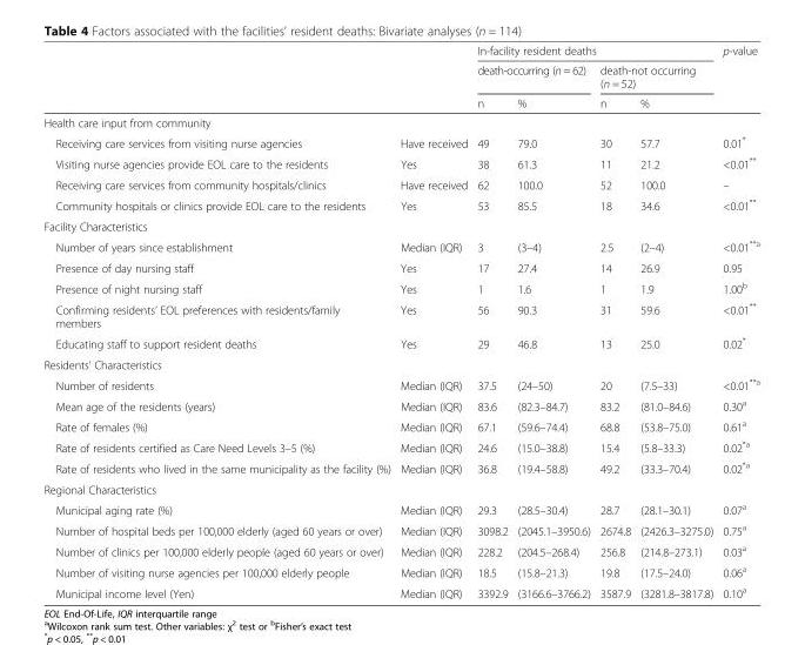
<table><thead><tr><td rowspan="3"></td><td rowspan="3"></td><td colspan="4">In-facility resident deaths</td><td rowspan="3">p-value</td></tr><tr><td colspan="2">death-occurring (n = 62)</td><td colspan="2">death-not occurring (n = 52)</td></tr><tr><td>n</td><td>%</td><td>n</td><td>%</td></tr></thead><tbody><tr><td colspan="7">Health care input from community</td></tr><tr><td>Receiving care services from visiting nurse agencies</td><td>Have received</td><td>49</td><td>79.0</td><td>30</td><td>57.7</td><td>0.01*</td></tr><tr><td>Visiting nurse agencies provide EOL care to the residents</td><td>Yes</td><td>38</td><td>61.3</td><td>11</td><td>21.2</td><td>&lt;0.01**</td></tr><tr><td>Receiving care services from community hospitals/clinics</td><td>Have received</td><td>62</td><td>100.0</td><td>52</td><td>100.0</td><td>–</td></tr><tr><td>Community hospitals or clinics provide EOL care to the residents</td><td>Yes</td><td>53</td><td>85.5</td><td>18</td><td>34.6</td><td>&lt;0.01**</td></tr><tr><td colspan="7">Facility Characteristics</td></tr><tr><td>Number of years since establishment</td><td>Median (IQR)</td><td>3</td><td>(3–4)</td><td>2.5</td><td>(2–4)</td><td>&lt;0.01<sup>**a</sup></td></tr><tr><td>Presence of day nursing staff</td><td>Yes</td><td>17</td><td>27.4</td><td>14</td><td>26.9</td><td>0.95</td></tr><tr><td>Presence of night nursing staff</td><td>Yes</td><td>1</td><td>1.6</td><td>1</td><td>1.9</td><td>1.00<sup>b</sup></td></tr><tr><td>Confirming residents’ EOL preferences with residents/family members</td><td>Yes</td><td>56</td><td>90.3</td><td>31</td><td>59.6</td><td>&lt;0.01**</td></tr><tr><td>Educating staff to support resident deaths</td><td>Yes</td><td>29</td><td>46.8</td><td>13</td><td>25.0</td><td>0.02*</td></tr><tr><td colspan="7">Residents’ Characteristics</td></tr><tr><td>Number of residents</td><td>Median (IQR)</td><td>37.5</td><td>(24–50)</td><td>20</td><td>(7.5–33)</td><td>&lt;0.01<sup>**a</sup></td></tr><tr><td>Mean age of the residents (years)</td><td>Median (IQR)</td><td>83.6</td><td>(82.3–84.7)</td><td>83.2</td><td>(81.0–84.6)</td><td>0.30<sup>a</sup></td></tr><tr><td>Rate of females (%)</td><td>Median (IQR)</td><td>67.1</td><td>(59.6–74.4)</td><td>68.8</td><td>(53.8–75.0)</td><td>0.61<sup>a</sup></td></tr><tr><td>Rate of residents certified as Care Need Levels 3–5 (%)</td><td>Median (IQR)</td><td>24.6</td><td>(15.0–38.8)</td><td>15.4</td><td>(5.8–33.3)</td><td>0.02<sup>*a</sup></td></tr><tr><td>Rate of residents who lived in the same municipality as the facility (%)</td><td>Median (IQR)</td><td>36.8</td><td>(19.4–58.8)</td><td>49.2</td><td>(33.3–70.4)</td><td>0.02<sup>*a</sup></td></tr><tr><td colspan="7">Regional Characteristics</td></tr><tr><td>Municipal aging rate (%)</td><td>Median (IQR)</td><td>29.3</td><td>(28.5–30.4)</td><td>28.7</td><td>(28.1–30.1)</td><td>0.07<sup>a</sup></td></tr><tr><td>Number of hospital beds per 100,000 elderly (aged 60 years or over)</td><td>Median (IQR)</td><td>3098.2</td><td>(2045.1–3950.6)</td><td>2674.8</td><td>(2426.3–3275.0)</td><td>0.75<sup>a</sup></td></tr><tr><td>Number of clinics per 100,000 elderly people (aged 60 years or over)</td><td>Median (IQR)</td><td>228.2</td><td>(204.5–268.4)</td><td>256.8</td><td>(214.8–273.1)</td><td>0.03<sup>a</sup></td></tr><tr><td>Number of visiting nurse agencies per 100,000 elderly people</td><td>Median (IQR)</td><td>18.5</td><td>(15.8–21.3)</td><td>19.8</td><td>(17.5–24.0)</td><td>0.06<sup>a</sup></td></tr><tr><td>Municipal income level (Yen)</td><td>Median (IQR)</td><td>3392.9</td><td>(3166.6–3766.2)</td><td>3587.9</td><td>(3281.8–3817.8)</td><td>0.10<sup>a</sup></td></tr></tbody></table>